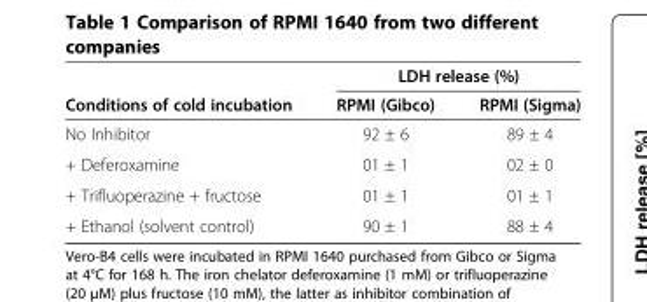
<table><thead><tr><td rowspan="2">Conditions of cold incubation</td><td colspan="2">LDH release (%)</td></tr><tr><td>RPMI (Gibco)</td><td>RPMI (Sigma)</td></tr></thead><tbody><tr><td>No Inhibitor</td><td>92 ± 6</td><td>89 ± 4</td></tr><tr><td>+ Deferoxamine</td><td>01 ± 1</td><td>02 ± 0</td></tr><tr><td>+ Trifluoperazine + fructose</td><td>01 ± 1</td><td>01 ± 1</td></tr><tr><td>+ Ethanol (solvent control)</td><td>90 ± 1</td><td>88 ± 4</td></tr></tbody></table>